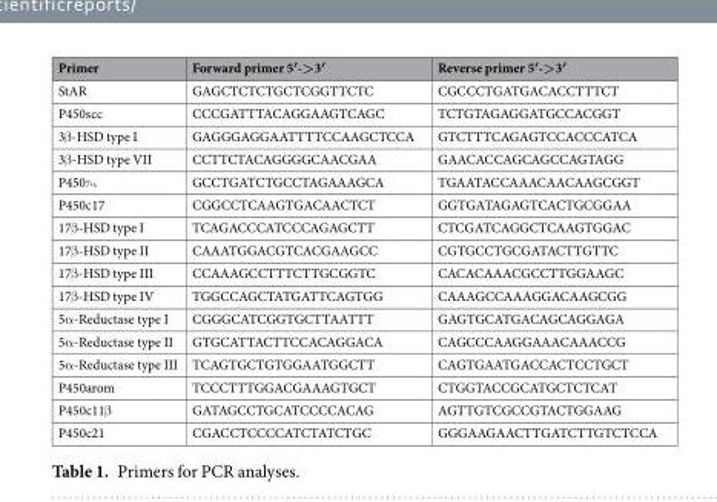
<table><thead><tr><td>Primer</td><td>Forward primer 5′-&gt;3′</td><td>Reverse primer 5′-&gt;3′</td></tr></thead><tbody><tr><td>StAR</td><td>GAGCTCTCTGCTCGGTTCTC</td><td>CGCCCTGATGACACCTTTCT</td></tr><tr><td>P450scc</td><td>CCCGATTTACAGGAAGTCAGC</td><td>TCTGTAGAGGATGCCACGGT</td></tr><tr><td>3β-HSD type I</td><td>GAGGGAGGAATTTTCCAAGCTCCA</td><td>GTCTTTCAGAGTCCACCCATCA</td></tr><tr><td>3β-HSD type VII</td><td>CCTTCTACAGGGGCAACGAA</td><td>GAACACCAGCAGCCAGTAGG</td></tr><tr><td>P4507α</td><td>GCCTGATCTGCCTAGAAAGCA</td><td>TGAATACCAAACAACAAGCGGT</td></tr><tr><td>P450c17</td><td>CGGCCTCAAGTGACAACTCT</td><td>GGTGATAGAGTCACTGCGGAA</td></tr><tr><td>17β-HSD type I</td><td>TCAGACCCATCCCAGAGCTT</td><td>CTCGATCAGGCTCAAGTGGAC</td></tr><tr><td>17β-HSD type II</td><td>CAAATGGACGTCACGAAGCC</td><td>CGTGCCTGCGATACTTGTTC</td></tr><tr><td>17β-HSD type III</td><td>CCAAAGCCTTTCTTGCGGTC</td><td>CACACAAACGCCTTGGAAGC</td></tr><tr><td>17β-HSD type IV</td><td>TGGCCAGCTATGATTCAGTGG</td><td>CAAAGCCAAAGGACAAGCGG</td></tr><tr><td>5α-Reductase type I</td><td>CGGGCATCGGTGCTTAATTT</td><td>GAGTGCATGACAGCAGGAGA</td></tr><tr><td>5α-Reductase type II</td><td>GTGCATTACTTCCACAGGACA</td><td>CAGCCCAAGGAAACAAACCG</td></tr><tr><td>5α-Reductase type III</td><td>TCAGTGCTGTGGAATGGCTT</td><td>CAGTGAATGACCACTCCTGCT</td></tr><tr><td>P450arom</td><td>TCCCTTTGGACGAAAGTGCT</td><td>CTGGTACCGCATGCTCTCAT</td></tr><tr><td>P450c11β</td><td>GATAGCCTGCATCCCCACAG</td><td>AGTTGTCGCCGTACTGGAAG</td></tr><tr><td>P450c21</td><td>CGACCTCCCCATCTATCTGC</td><td>GGGAAGAACTTGATCTTGTCTCCA</td></tr></tbody></table>